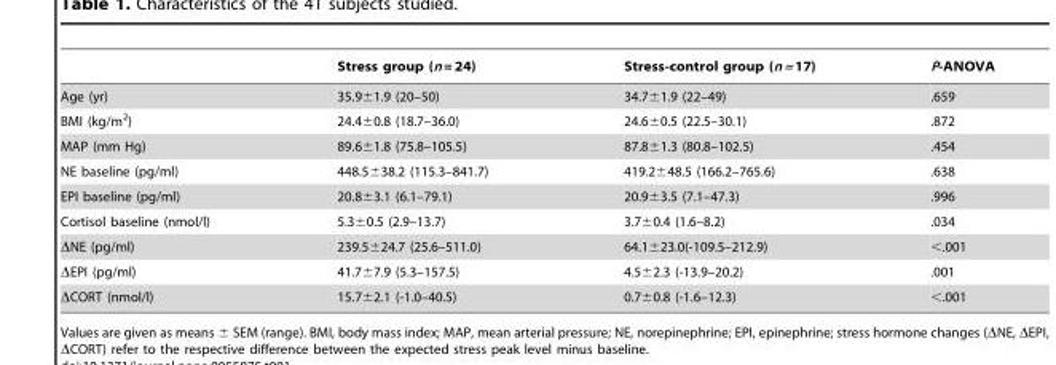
<table><thead><tr><td></td><td>Stress group (n = 24)</td><td>Stress-control group (n = 17)</td><td>P-ANOVA</td></tr></thead><tbody><tr><td>Age (yr)</td><td>35.9±1.9 (20–50)</td><td>34.7±1.9 (22–49)</td><td>.659</td></tr><tr><td>BMI (kg/m<sup>2</sup>)</td><td>24.4±0.8 (18.7–36.0)</td><td>24.6±0.5 (22.5–30.1)</td><td>.872</td></tr><tr><td>MAP (mm Hg)</td><td>89.6±1.8 (75.8–105.5)</td><td>87.8±1.3 (80.8–102.5)</td><td>.454</td></tr><tr><td>NE baseline (pg/ml)</td><td>448.5±38.2 (115.3–841.7)</td><td>419.2±48.5 (166.2–765.6)</td><td>.638</td></tr><tr><td>EPI baseline (pg/ml)</td><td>20.8±3.1 (6.1–79.1)</td><td>20.9±3.5 (7.1–47.3)</td><td>.996</td></tr><tr><td>Cortisol baseline (nmol/l)</td><td>5.3±0.5 (2.9–13.7)</td><td>3.7±0.4 (1.6–8.2)</td><td>.034</td></tr><tr><td>ΔNE (pg/ml)</td><td>239.5±24.7 (25.6–511.0)</td><td>64.1±23.0(-109.5–212.9)</td><td>&lt;.001</td></tr><tr><td>ΔEPI (pg/ml)</td><td>41.7±7.9 (5.3–157.5)</td><td>4.5±2.3 (-13.9–20.2)</td><td>.001</td></tr><tr><td>ΔCORT (nmol/l)</td><td>15.7±2.1 (-1.0–40.5)</td><td>0.7±0.8 (-1.6–12.3)</td><td>&lt;.001</td></tr></tbody></table>